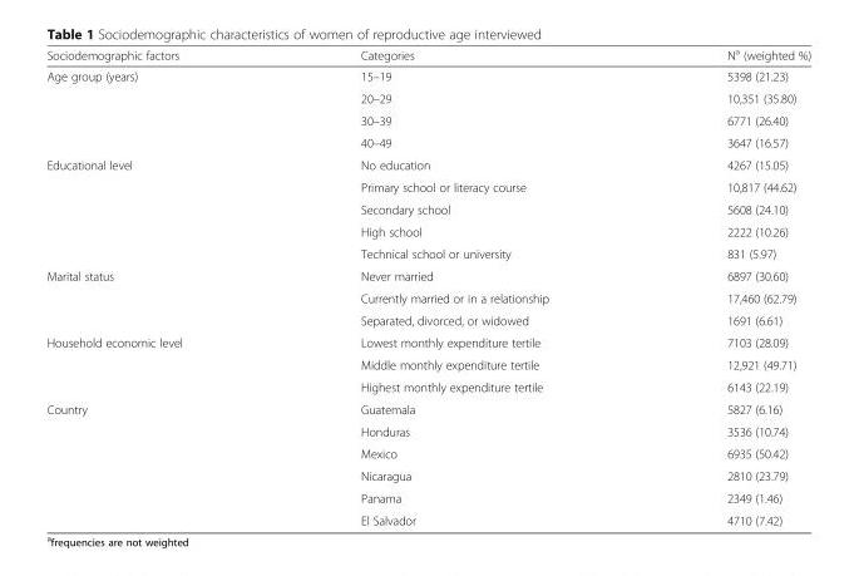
<table><thead><tr><td>Sociodemographic factors</td><td>Categories</td><td>N<sup>a</sup> (weighted %)</td></tr></thead><tbody><tr><td rowspan="4">Age group (years)</td><td>15–19</td><td>5398 (21.23)</td></tr><tr><td>20–29</td><td>10,351 (35.80)</td></tr><tr><td>30–39</td><td>6771 (26.40)</td></tr><tr><td>40–49</td><td>3647 (16.57)</td></tr><tr><td rowspan="5">Educational level</td><td>No education</td><td>4267 (15.05)</td></tr><tr><td>Primary school or literacy course</td><td>10,817 (44.62)</td></tr><tr><td>Secondary school</td><td>5608 (24.10)</td></tr><tr><td>High school</td><td>2222 (10.26)</td></tr><tr><td>Technical school or university</td><td>831 (5.97)</td></tr><tr><td rowspan="3">Marital status</td><td>Never married</td><td>6897 (30.60)</td></tr><tr><td>Currently married or in a relationship</td><td>17,460 (62.79)</td></tr><tr><td>Separated, divorced, or widowed</td><td>1691 (6.61)</td></tr><tr><td rowspan="3">Household economic level</td><td>Lowest monthly expenditure tertile</td><td>7103 (28.09)</td></tr><tr><td>Middle monthly expenditure tertile</td><td>12,921 (49.71)</td></tr><tr><td>Highest monthly expenditure tertile</td><td>6143 (22.19)</td></tr><tr><td rowspan="6">Country</td><td>Guatemala</td><td>5827 (6.16)</td></tr><tr><td>Honduras</td><td>3536 (10.74)</td></tr><tr><td>Mexico</td><td>6935 (50.42)</td></tr><tr><td>Nicaragua</td><td>2810 (23.79)</td></tr><tr><td>Panama</td><td>2349 (1.46)</td></tr><tr><td>El Salvador</td><td>4710 (7.42)</td></tr></tbody></table>